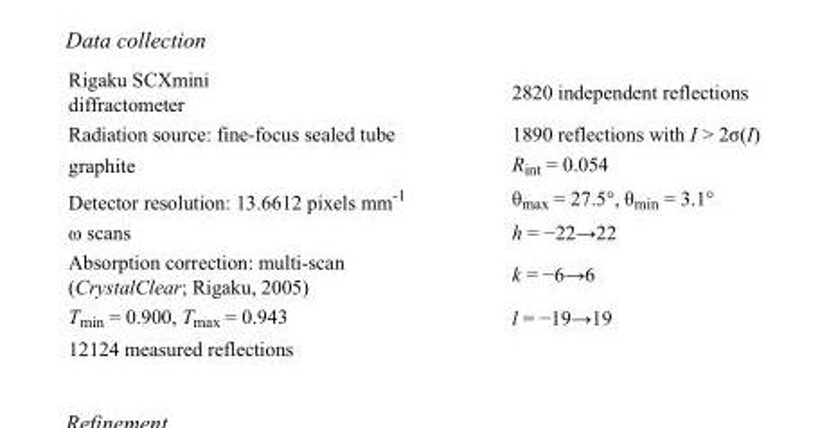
<table><tbody><tr><td>Rigaku SCXmini diffractometer</td><td>2820 independent reflections</td></tr><tr><td>Radiation source: fine-focus sealed tube</td><td>1890 reflections with I &gt; 2σ(I)</td></tr><tr><td>graphite</td><td>R<sub>int</sub> = 0.054</td></tr><tr><td>Detector resolution: 13.6612 pixels mm<sup>-1</sup></td><td>θ<sub>max</sub> = 27.5°, θ<sub>min</sub> = 3.1°</td></tr><tr><td>ω scans</td><td>h = −22→22</td></tr><tr><td>Absorption correction: multi-scan (CrystalClear; Rigaku, 2005)</td><td>k = −6→6</td></tr><tr><td>T<sub>min</sub> = 0.900, T<sub>max</sub> = 0.943</td><td>l = −19→19</td></tr><tr><td>12124 measured reflections</td><td></td></tr></tbody></table>